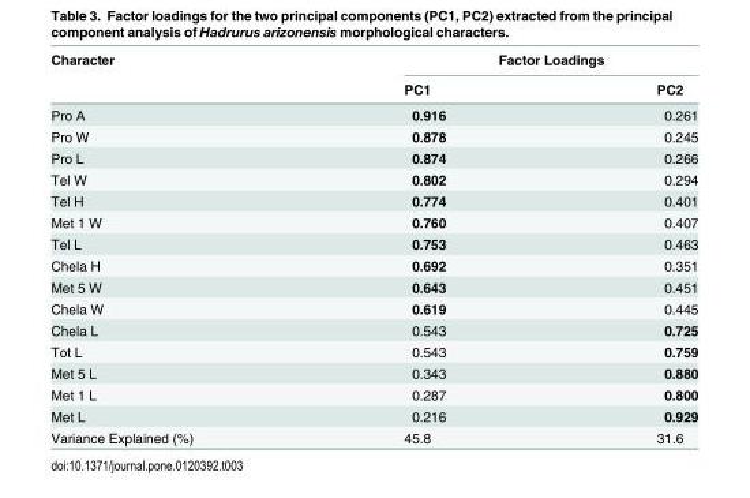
<table><thead><tr><td rowspan="2">Character</td><td colspan="2">Factor Loadings</td></tr><tr><td>PC1</td><td>PC2</td></tr></thead><tbody><tr><td>Pro A</td><td>0.916</td><td>0.261</td></tr><tr><td>Pro W</td><td>0.878</td><td>0.245</td></tr><tr><td>Pro L</td><td>0.874</td><td>0.266</td></tr><tr><td>Tel W</td><td>0.802</td><td>0.294</td></tr><tr><td>Tel H</td><td>0.774</td><td>0.401</td></tr><tr><td>Met 1 W</td><td>0.760</td><td>0.407</td></tr><tr><td>Tel L</td><td>0.753</td><td>0.463</td></tr><tr><td>Chela H</td><td>0.692</td><td>0.351</td></tr><tr><td>Met 5 W</td><td>0.643</td><td>0.451</td></tr><tr><td>Chela W</td><td>0.619</td><td>0.445</td></tr><tr><td>Chela L</td><td>0.543</td><td>0.725</td></tr><tr><td>Tot L</td><td>0.543</td><td>0.759</td></tr><tr><td>Met 5 L</td><td>0.343</td><td>0.880</td></tr><tr><td>Met 1 L</td><td>0.287</td><td>0.800</td></tr><tr><td>Met L</td><td>0.216</td><td>0.929</td></tr><tr><td>Variance Explained (%)</td><td>45.8</td><td>31.6</td></tr></tbody></table>